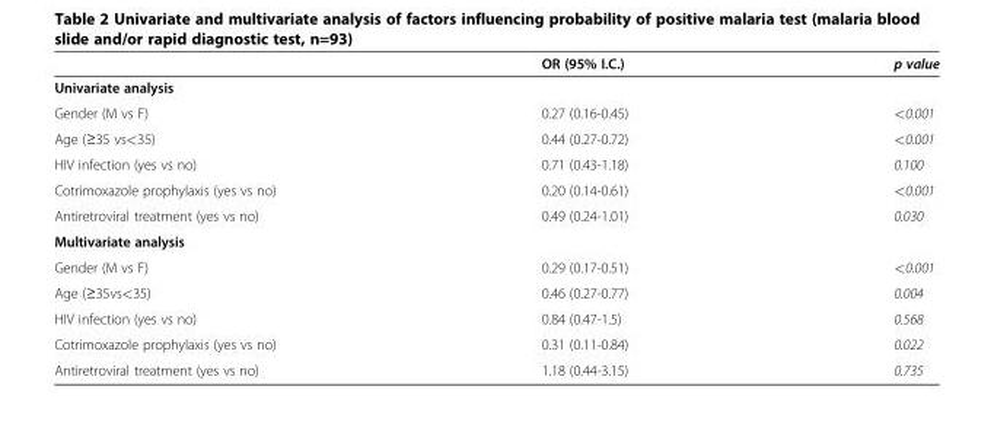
<table><thead><tr><td></td><td>OR (95% I.C.)</td><td>p value</td></tr></thead><tbody><tr><td colspan="3">Univariate analysis</td></tr><tr><td>Gender (M vs F)</td><td>0.27 (0.16-0.45)</td><td>&lt;0.001</td></tr><tr><td>Age (≥35 vs&lt;35)</td><td>0.44 (0.27-0.72)</td><td>&lt;0.001</td></tr><tr><td>HIV infection (yes vs no)</td><td>0.71 (0.43-1.18)</td><td>0.100</td></tr><tr><td>Cotrimoxazole prophylaxis (yes vs no)</td><td>0.20 (0.14-0.61)</td><td>&lt;0.001</td></tr><tr><td>Antiretroviral treatment (yes vs no)</td><td>0.49 (0.24-1.01)</td><td>0.030</td></tr><tr><td colspan="3">Multivariate analysis</td></tr><tr><td>Gender (M vs F)</td><td>0.29 (0.17-0.51)</td><td>&lt;0.001</td></tr><tr><td>Age (≥35vs&lt;35)</td><td>0.46 (0.27-0.77)</td><td>0.004</td></tr><tr><td>HIV infection (yes vs no)</td><td>0.84 (0.47-1.5)</td><td>0.568</td></tr><tr><td>Cotrimoxazole prophylaxis (yes vs no)</td><td>0.31 (0.11-0.84)</td><td>0.022</td></tr><tr><td>Antiretroviral treatment (yes vs no)</td><td>1.18 (0.44-3.15)</td><td>0.735</td></tr></tbody></table>